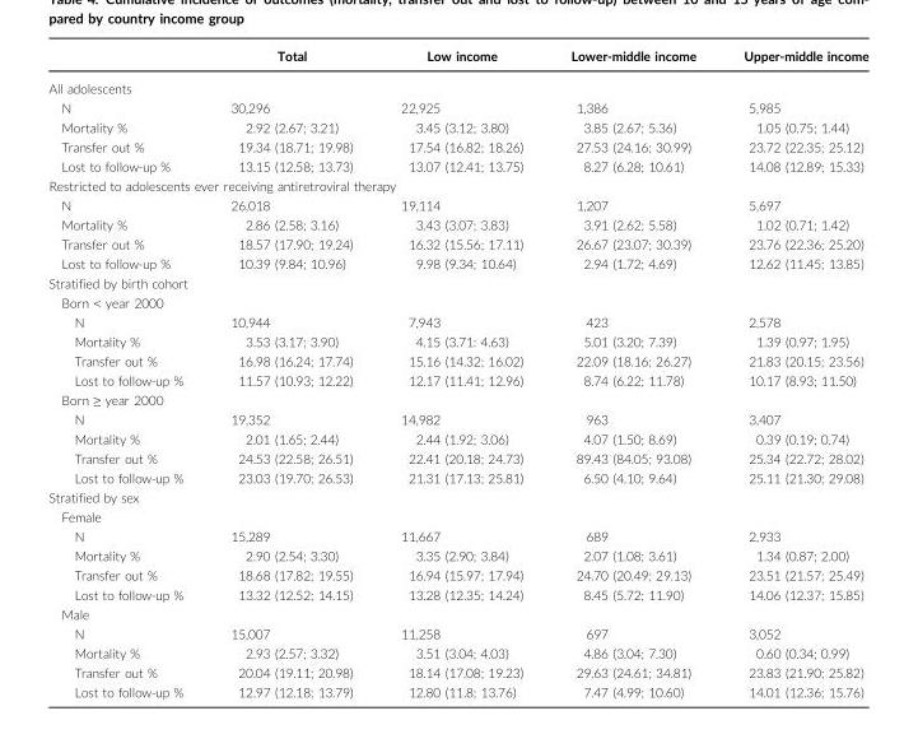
<table><thead><tr><td></td><td>Total</td><td>Low income</td><td>Lower-middle income</td><td>Upper-middle income</td></tr></thead><tbody><tr><td colspan="5">All adolescents</td></tr><tr><td>N</td><td>30,296</td><td>22,925</td><td>1,386</td><td>5,985</td></tr><tr><td>Mortality %</td><td>2.92 (2.67; 3.21)</td><td>3.45 (3.12; 3.80)</td><td>3.85 (2.67; 5.36)</td><td>1.05 (0.75; 1.44)</td></tr><tr><td>Transfer out %</td><td>19.34 (18.71; 19.98)</td><td>17.54 (16.82; 18.26)</td><td>27.53 (24.16; 30.99)</td><td>23.72 (22.35; 25.12)</td></tr><tr><td>Lost to follow-up %</td><td>13.15 (12.58; 13.73)</td><td>13.07 (12.41; 13.75)</td><td>8.27 (6.28; 10.61)</td><td>14.08 (12.89; 15.33)</td></tr><tr><td colspan="5">Restricted to adolescents ever receiving antiretroviral therapy</td></tr><tr><td>N</td><td>26,018</td><td>19,114</td><td>1,207</td><td>5,697</td></tr><tr><td>Mortality %</td><td>2.86 (2.58; 3.16)</td><td>3.43 (3.07; 3.83)</td><td>3.91 (2.62; 5.58)</td><td>1.02 (0.71; 1.42)</td></tr><tr><td>Transfer out %</td><td>18.57 (17.90; 19.24)</td><td>16.32 (15.56; 17.11)</td><td>26.67 (23.07; 30.39)</td><td>23.76 (22.36; 25.20)</td></tr><tr><td>Lost to follow-up %</td><td>10.39 (9.84; 10.96)</td><td>9.98 (9.34; 10.64)</td><td>2.94 (1.72; 4.69)</td><td>12.62 (11.45; 13.85)</td></tr><tr><td colspan="5">Stratified by birth cohort</td></tr><tr><td colspan="5">Born &lt; year 2000</td></tr><tr><td>N</td><td>10,944</td><td>7,943</td><td>423</td><td>2,578</td></tr><tr><td>Mortality %</td><td>3.53 (3.17; 3.90)</td><td>4.15 (3.71: 4.63)</td><td>5.01 (3.20; 7.39)</td><td>1.39 (0.97; 1.95)</td></tr><tr><td>Transfer out %</td><td>16.98 (16.24; 17.74)</td><td>15.16 (14.32; 16.02)</td><td>22.09 (18.16; 26.27)</td><td>21.83 (20.15; 23.56)</td></tr><tr><td>Lost to follow-up %</td><td>11.57 (10.93; 12.22)</td><td>12.17 (11.41; 12.96)</td><td>8.74 (6.22; 11.78)</td><td>10.17 (8.93; 11.50)</td></tr><tr><td colspan="5">Born ≥ year 2000</td></tr><tr><td>N</td><td>19,352</td><td>14,982</td><td>963</td><td>3,407</td></tr><tr><td>Mortality %</td><td>2.01 (1.65; 2.44)</td><td>2.44 (1.92; 3.06)</td><td>4.07 (1.50; 8.69)</td><td>0.39 (0.19; 0.74)</td></tr><tr><td>Transfer out %</td><td>24.53 (22.58; 26.51)</td><td>22.41 (20.18; 24.73)</td><td>89.43 (84.05; 93.08)</td><td>25.34 (22.72; 28.02)</td></tr><tr><td>Lost to follow-up %</td><td>23.03 (19.70; 26.53)</td><td>21.31 (17.13; 25.81)</td><td>6.50 (4.10; 9.64)</td><td>25.11 (21.30; 29.08)</td></tr><tr><td colspan="5">Stratified by sex</td></tr><tr><td colspan="5">Female</td></tr><tr><td>N</td><td>15,289</td><td>11,667</td><td>689</td><td>2,933</td></tr><tr><td>Mortality %</td><td>2.90 (2.54; 3.30)</td><td>3.35 (2.90; 3.84)</td><td>2.07 (1.08; 3.61)</td><td>1.34 (0.87; 2.00)</td></tr><tr><td>Transfer out %</td><td>18.68 (17.82; 19.55)</td><td>16.94 (15.97; 17.94)</td><td>24.70 (20.49; 29.13)</td><td>23.51 (21.57; 25.49)</td></tr><tr><td>Lost to follow-up %</td><td>13.32 (12.52; 14.15)</td><td>13.28 (12.35; 14.24)</td><td>8.45 (5.72; 11.90)</td><td>14.06 (12.37; 15.85)</td></tr><tr><td colspan="5">Male</td></tr><tr><td>N</td><td>15,007</td><td>11,258</td><td>697</td><td>3,052</td></tr><tr><td>Mortality %</td><td>2.93 (2.57; 3.32)</td><td>3.51 (3.04; 4.03)</td><td>4.86 (3.04; 7.30)</td><td>0.60 (0.34; 0.99)</td></tr><tr><td>Transfer out %</td><td>20.04 (19.11; 20.98)</td><td>18.14 (17.08; 19.23)</td><td>29.63 (24.61; 34.81)</td><td>23.83 (21.90; 25.82)</td></tr><tr><td>Lost to follow-up %</td><td>12.97 (12.18; 13.79)</td><td>12.80 (11.8; 13.76)</td><td>7.47 (4.99; 10.60)</td><td>14.01 (12.36; 15.76)</td></tr></tbody></table>